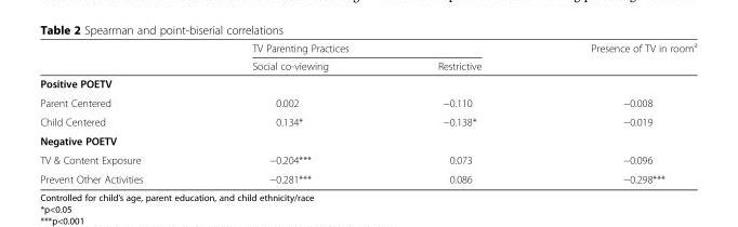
<table><thead><tr><td rowspan="2"></td><td colspan="2">TV Parenting Practices</td><td rowspan="2">Presence of TV in room<sup>a</sup></td></tr><tr><td>Social co-viewing</td><td>Restrictive</td></tr></thead><tbody><tr><td colspan="4">Positive POETV</td></tr><tr><td>Parent Centered</td><td>0.002</td><td>−0.110</td><td>−0.008</td></tr><tr><td>Child Centered</td><td>0.134*</td><td>−0.138*</td><td>−0.019</td></tr><tr><td colspan="4">Negative POETV</td></tr><tr><td>TV &amp; Content Exposure</td><td>−0.204***</td><td>0.073</td><td>−0.096</td></tr><tr><td>Prevent Other Activities</td><td>−0.281***</td><td>0.086</td><td>−0.298***</td></tr></tbody></table>